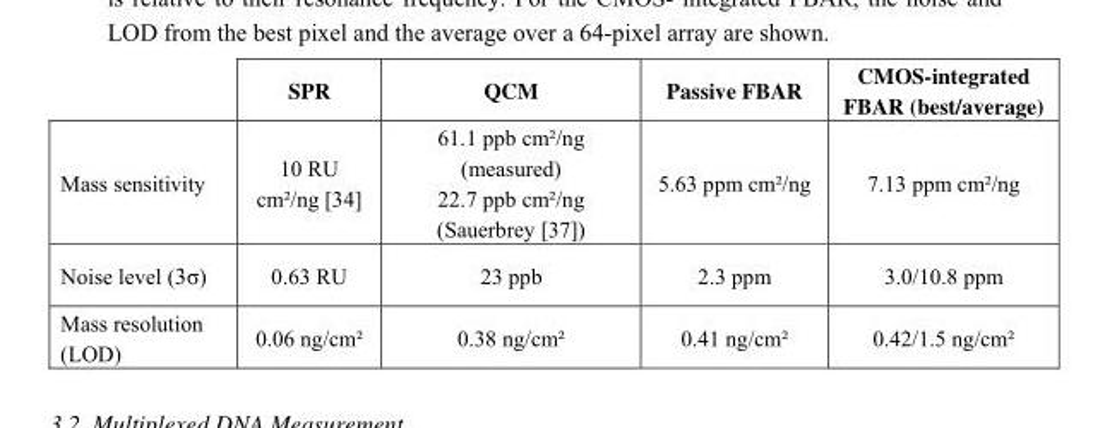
<table><thead><tr><td></td><td>SPR</td><td>QCM</td><td>Passive FBAR</td><td>CMOS-integrated FBAR (best/average)</td></tr></thead><tbody><tr><td>Mass sensitivity</td><td>10 RU cm²/ng [34]</td><td>61.1 ppb cm²/ng (measured) 22.7 ppb cm²/ng (Sauerbrey [37])</td><td>5.63 ppm cm²/ng</td><td>7.13 ppm cm²/ng</td></tr><tr><td>Noise level (3σ)</td><td>0.63 RU</td><td>23 ppb</td><td>2.3 ppm</td><td>3.0/10.8 ppm</td></tr><tr><td>Mass resolution (LOD)</td><td>0.06 ng/cm²</td><td>0.38 ng/cm²</td><td>0.41 ng/cm²</td><td>0.42/1.5 ng/cm²</td></tr></tbody></table>